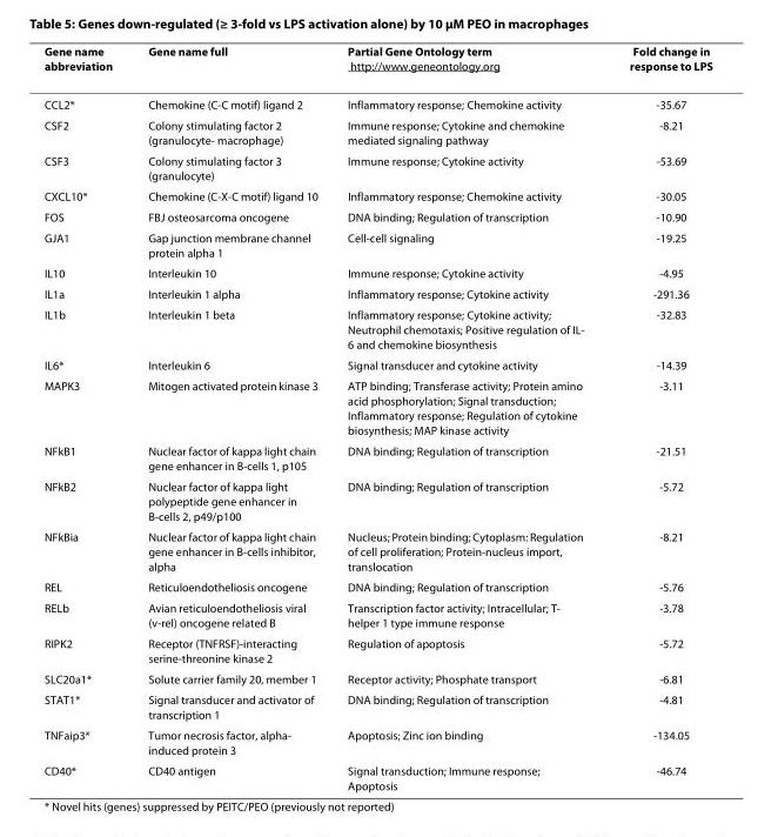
<table><thead><tr><td>Gene name abbreviation</td><td>Gene name full</td><td>Partial Gene Ontology term http://www.geneontology.org</td><td>Fold change in response to LPS</td></tr></thead><tbody><tr><td>CCL2*</td><td>Chemokine (C-C motif) ligand 2</td><td>Inflammatory response; Chemokine activity</td><td>-35.67</td></tr><tr><td>CSF2</td><td>Colony stimulating factor 2 (granulocyte- macrophage)</td><td>Immune response; Cytokine and chemokine mediated signaling pathway</td><td>-8.21</td></tr><tr><td>CSF3</td><td>Colony stimulating factor 3 (granulocyte)</td><td>Immune response; Cytokine activity</td><td>-53.69</td></tr><tr><td>CXCL10*</td><td>Chemokine (C-X-C motif) ligand 10</td><td>Inflammatory response; Chemokine activity</td><td>-30.05</td></tr><tr><td>FOS</td><td>FBJ osteosarcoma oncogene</td><td>DNA binding; Regulation of transcription</td><td>-10.90</td></tr><tr><td>GJA1</td><td>Gap junction membrane channel protein alpha 1</td><td>Cell-cell signaling</td><td>-19.25</td></tr><tr><td>IL10</td><td>Interleukin 10</td><td>Immune response; Cytokine activity</td><td>-4.95</td></tr><tr><td>IL1a</td><td>Interleukin 1 alpha</td><td>Inflammatory response; Cytokine activity</td><td>-291.36</td></tr><tr><td>IL1b</td><td>Interleukin 1 beta</td><td>Inflammatory response; Cytokine activity; Neutrophil chemotaxis; Positive regulation of IL- 6 and chemokine biosynthesis</td><td>-32.83</td></tr><tr><td>IL6*</td><td>Interleukin 6</td><td>Signal transducer and cytokine activity</td><td>-14.39</td></tr><tr><td>MAPK3</td><td>Mitogen activated protein kinase 3</td><td>ATP binding; Transferase activity; Protein amino acid phosphorylation; Signal transduction; Inflammatory response; Regulation of cytokine biosynthesis; MAP kinase activity</td><td>-3.11</td></tr><tr><td>NFkB1</td><td>Nuclear factor of kappa light chain gene enhancer in B-cells 1, p105</td><td>DNA binding; Regulation of transcription</td><td>-21.51</td></tr><tr><td>NFkB2</td><td>Nuclear factor of kappa light polypeptide gene enhancer in B-cells 2, p49/p100</td><td>DNA binding; Regulation of transcription</td><td>-5.72</td></tr><tr><td>NFkBia</td><td>Nuclear factor of kappa light chain gene enhancer in B-cells inhibitor, alpha</td><td>Nucleus; Protein binding; Cytoplasm: Regulation of cell proliferation; Protein-nucleus import, translocation</td><td>-8.21</td></tr><tr><td>REL</td><td>Reticuloendotheliosis oncogene</td><td>DNA binding; Regulation of transcription</td><td>-5.76</td></tr><tr><td>RELb</td><td>Avian reticuloendotheliosis viral (v-rel) oncogene related B</td><td>Transcription factor activity; Intracellular; T- helper 1 type immune response</td><td>-3.78</td></tr><tr><td>RIPK2</td><td>Receptor (TNFRSF)-interacting serine-threonine kinase 2</td><td>Regulation of apoptosis</td><td>-5.72</td></tr><tr><td>SLC20a1*</td><td>Solute carrier family 20, member 1</td><td>Receptor activity; Phosphate transport</td><td>-6.81</td></tr><tr><td>STAT1*</td><td>Signal transducer and activator of transcription 1</td><td>DNA binding; Regulation of transcription</td><td>-4.81</td></tr><tr><td>TNFaip3*</td><td>Tumor necrosis factor, alpha- induced protein 3</td><td>Apoptosis; Zinc ion binding</td><td>-134.05</td></tr><tr><td>CD40*</td><td>CD40 antigen</td><td>Signal transduction; Immune response; Apoptosis</td><td>-46.74</td></tr></tbody></table>